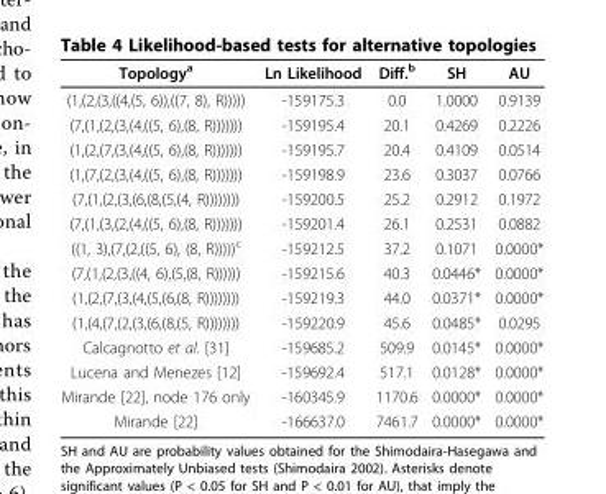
<table><thead><tr><td>Topology<sup>a</sup></td><td>Ln Likelihood</td><td>Diff.<sup>b</sup></td><td>SH</td><td>AU</td></tr></thead><tbody><tr><td>(1,(2,(3,((4,(5, 6)),((7, 8), R)))))</td><td>-159175.3</td><td>0.0</td><td>1.0000</td><td>0.9139</td></tr><tr><td>(7,(1,(2,(3,(4,((5, 6),(8, R)))))))</td><td>-159195.4</td><td>20.1</td><td>0.4269</td><td>0.2226</td></tr><tr><td>(1,(2,(7,(3,(4,((5, 6),(8, R)))))))</td><td>-159195.7</td><td>20.4</td><td>0.4109</td><td>0.0514</td></tr><tr><td>(1,(7,(2,(3,(4,((5, 6),(8, R)))))))</td><td>-159198.9</td><td>23.6</td><td>0.3037</td><td>0.0766</td></tr><tr><td>(7,(1,(2,(3,(6,(8,(5,(4, R))))))))</td><td>-159200.5</td><td>25.2</td><td>0.2912</td><td>0.1972</td></tr><tr><td>(7,(1,(3,(2,(4,((5, 6),(8, R)))))))</td><td>-159201.4</td><td>26.1</td><td>0.2531</td><td>0.0882</td></tr><tr><td>((1, 3),(7,(2,((5, 6), (8, R)))))<sup>c</sup></td><td>-159212.5</td><td>37.2</td><td>0.1071</td><td>0.0000*</td></tr><tr><td>(7,(1,(2,(3,((4, 6),(5,(8, R))))))</td><td>-159215.6</td><td>40.3</td><td>0.0446*</td><td>0.0000*</td></tr><tr><td>(1,(2,(7,(3,(4,(5,(6,(8, R))))))))</td><td>-159219.3</td><td>44.0</td><td>0.0371*</td><td>0.0000*</td></tr><tr><td>(1,(4,(7,(2,(3,(6,(8,(5, R))))))))</td><td>-159220.9</td><td>45.6</td><td>0.0485*</td><td>0.0295</td></tr><tr><td>Calcagnotto et al. [31]</td><td>-159685.2</td><td>509.9</td><td>0.0145*</td><td>0.0000*</td></tr><tr><td>Lucena and Menezes [12]</td><td>-159692.4</td><td>517.1</td><td>0.0128*</td><td>0.0000*</td></tr><tr><td>Mirande [22], node 176 only</td><td>-160345.9</td><td>1170.6</td><td>0.0000*</td><td>0.0000*</td></tr><tr><td>Mirande [22]</td><td>-166637.0</td><td>7461.7</td><td>0.0000*</td><td>0.0000*</td></tr></tbody></table>